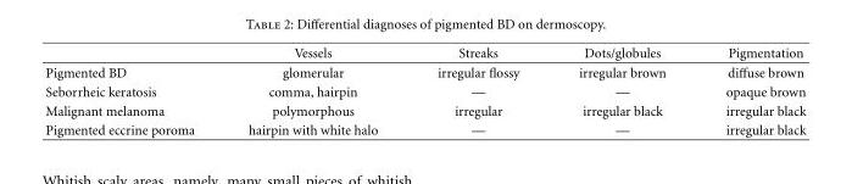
<table><thead><tr><td></td><td>Vessels</td><td>Streaks</td><td>Dots/globules</td><td>Pigmentation</td></tr></thead><tbody><tr><td>Pigmented BD</td><td>glomerular</td><td>irregular flossy</td><td>irregular brown</td><td>diffuse brown</td></tr><tr><td>Seborrheic keratosis</td><td>comma, hairpin</td><td>—</td><td>—</td><td>opaque brown</td></tr><tr><td>Malignant melanoma</td><td>polymorphous</td><td>irregular</td><td>irregular black</td><td>irregular black</td></tr><tr><td>Pigmented eccrine poroma</td><td>hairpin with white halo</td><td>—</td><td>—</td><td>irregular black</td></tr></tbody></table>